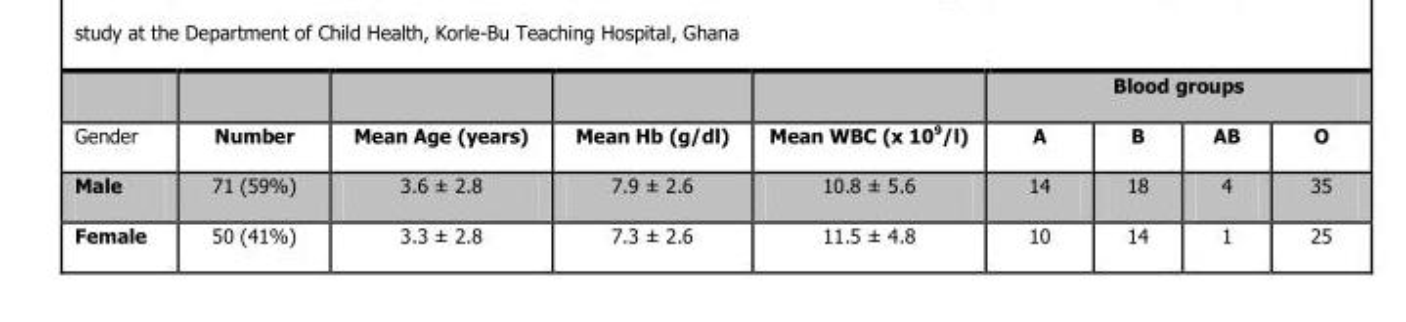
<table><thead><tr><td rowspan="2">Gender</td><td rowspan="2">Number</td><td rowspan="2">Mean Age (years)</td><td rowspan="2">Mean Hb (g/dl)</td><td rowspan="2">Mean WBC (x 10<sup>9</sup>/l)</td><td colspan="4">Blood groups</td></tr><tr><td>A</td><td>B</td><td>AB</td><td>O</td></tr></thead><tbody><tr><td>Male</td><td>71 (59%)</td><td>3.6 ± 2.8</td><td>7.9 ± 2.6</td><td>10.8 ± 5.6</td><td>14</td><td>18</td><td>4</td><td>35</td></tr><tr><td>Female</td><td>50 (41%)</td><td>3.3 ± 2.8</td><td>7.3 ± 2.6</td><td>11.5 ± 4.8</td><td>10</td><td>14</td><td>1</td><td>25</td></tr></tbody></table>